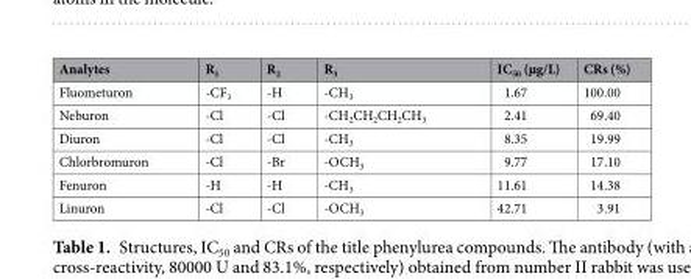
<table><thead><tr><td>Analytes</td><td>R<sub>1</sub></td><td>R<sub>2</sub></td><td>R<sub>3</sub></td><td>IC<sub>50</sub> (µg/L)</td><td>CRs (%)</td></tr></thead><tbody><tr><td>Fluometuron</td><td>-CF<sub>3</sub></td><td>-H</td><td>-CH<sub>3</sub></td><td>1.67</td><td>100.00</td></tr><tr><td>Neburon</td><td>-Cl</td><td>-Cl</td><td>-CH<sub>2</sub>CH<sub>2</sub>CH<sub>2</sub>CH<sub>3</sub></td><td>2.41</td><td>69.40</td></tr><tr><td>Diuron</td><td>-Cl</td><td>-Cl</td><td>-CH<sub>3</sub></td><td>8.35</td><td>19.99</td></tr><tr><td>Chlorbromuron</td><td>-Cl</td><td>-Br</td><td>-OCH<sub>3</sub></td><td>9.77</td><td>17.10</td></tr><tr><td>Fenuron</td><td>-H</td><td>-H</td><td>-CH<sub>3</sub></td><td>11.61</td><td>14.38</td></tr><tr><td>Linuron</td><td>-Cl</td><td>-Cl</td><td>-OCH<sub>3</sub></td><td>42.71</td><td>3.91</td></tr></tbody></table>